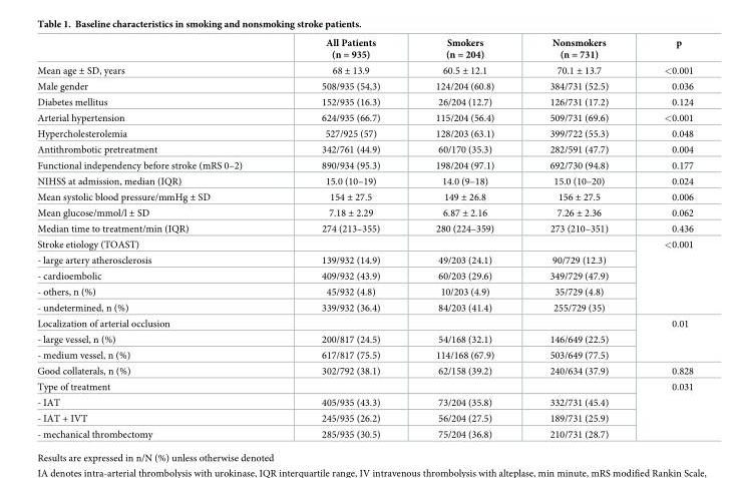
<table><thead><tr><td></td><td>All Patients (n = 935)</td><td>Smokers (n = 204)</td><td>Nonsmokers (n = 731)</td><td>p</td></tr></thead><tbody><tr><td>Mean age ± SD, years</td><td>68 ± 13.9</td><td>60.5 ± 12.1</td><td>70.1 ± 13.7</td><td>&lt;0.001</td></tr><tr><td>Male gender</td><td>508/935 (54,3)</td><td>124/204 (60.8)</td><td>384/731 (52.5)</td><td>0.036</td></tr><tr><td>Diabetes mellitus</td><td>152/935 (16.3)</td><td>26/204 (12.7)</td><td>126/731 (17.2)</td><td>0.124</td></tr><tr><td>Arterial hypertension</td><td>624/935 (66.7)</td><td>115/204 (56.4)</td><td>509/731 (69.6)</td><td>&lt;0.001</td></tr><tr><td>Hypercholesterolemia</td><td>527/925 (57)</td><td>128/203 (63.1)</td><td>399/722 (55.3)</td><td>0.048</td></tr><tr><td>Antithrombotic pretreatment</td><td>342/761 (44.9)</td><td>60/170 (35.3)</td><td>282/591 (47.7)</td><td>0.004</td></tr><tr><td>Functional independency before stroke (mRS 0–2)</td><td>890/934 (95.3)</td><td>198/204 (97.1)</td><td>692/730 (94.8)</td><td>0.177</td></tr><tr><td>NIHSS at admission, median (IQR)</td><td>15.0 (10–19)</td><td>14.0 (9–18)</td><td>15.0 (10–20)</td><td>0.024</td></tr><tr><td>Mean systolic blood pressure/mmHg ± SD</td><td>154 ± 27.5</td><td>149 ± 26.8</td><td>156 ± 27.5</td><td>0.006</td></tr><tr><td>Mean glucose/mmol/l ± SD</td><td>7.18 ± 2.29</td><td>6.87 ± 2.16</td><td>7.26 ± 2.36</td><td>0.062</td></tr><tr><td>Median time to treatment/min (IQR)</td><td>274 (213–355)</td><td>280 (224–359)</td><td>273 (210–351)</td><td>0.436</td></tr><tr><td colspan="4">Stroke etiology (TOAST)</td><td rowspan="5">&lt;0.001</td></tr><tr><td>- large artery atherosclerosis</td><td>139/932 (14.9)</td><td>49/203 (24.1)</td><td>90/729 (12.3)</td></tr><tr><td>- cardioembolic</td><td>409/932 (43.9)</td><td>60/203 (29.6)</td><td>349/729 (47.9)</td></tr><tr><td>- others, n (%)</td><td>45/932 (4.8)</td><td>10/203 (4.9)</td><td>35/729 (4.8)</td></tr><tr><td>- undetermined, n (%)</td><td>339/932 (36.4)</td><td>84/203 (41.4)</td><td>255/729 (35)</td></tr><tr><td colspan="4">Localization of arterial occlusion</td><td rowspan="3">0.01</td></tr><tr><td>- large vessel, n (%)</td><td>200/817 (24.5)</td><td>54/168 (32.1)</td><td>146/649 (22.5)</td></tr><tr><td>- medium vessel, n (%)</td><td>617/817 (75.5)</td><td>114/168 (67.9)</td><td>503/649 (77.5)</td></tr><tr><td>Good collaterals, n (%)</td><td>302/792 (38.1)</td><td>62/158 (39.2)</td><td>240/634 (37.9)</td><td>0.828</td></tr><tr><td colspan="4">Type of treatment</td><td rowspan="4">0.031</td></tr><tr><td>- IAT</td><td>405/935 (43.3)</td><td>73/204 (35.8)</td><td>332/731 (45.4)</td></tr><tr><td>- IAT + IVT</td><td>245/935 (26.2)</td><td>56/204 (27.5)</td><td>189/731 (25.9)</td></tr><tr><td>- mechanical thrombectomy</td><td>285/935 (30.5)</td><td>75/204 (36.8)</td><td>210/731 (28.7)</td></tr></tbody></table>